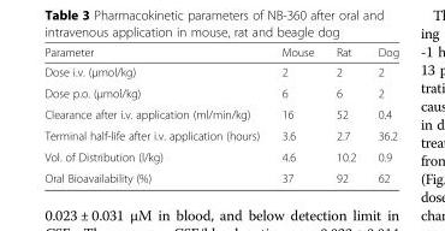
<table><thead><tr><td>Parameter</td><td>Mouse</td><td>Rat</td><td>Dog</td></tr></thead><tbody><tr><td>Dose i.v. (μmol/kg)</td><td>2</td><td>2</td><td>2</td></tr><tr><td>Dose p.o. (μmol/kg)</td><td>6</td><td>6</td><td>2</td></tr><tr><td>Clearance after i.v. application (ml/min/kg)</td><td>16</td><td>52</td><td>0.4</td></tr><tr><td>Terminal half-life after i.v. application (hours)</td><td>3.6</td><td>2.7</td><td>36.2</td></tr><tr><td>Vol. of Distribution (l/kg)</td><td>4.6</td><td>10.2</td><td>0.9</td></tr><tr><td>Oral Bioavailability (%)</td><td>37</td><td>92</td><td>62</td></tr></tbody></table>